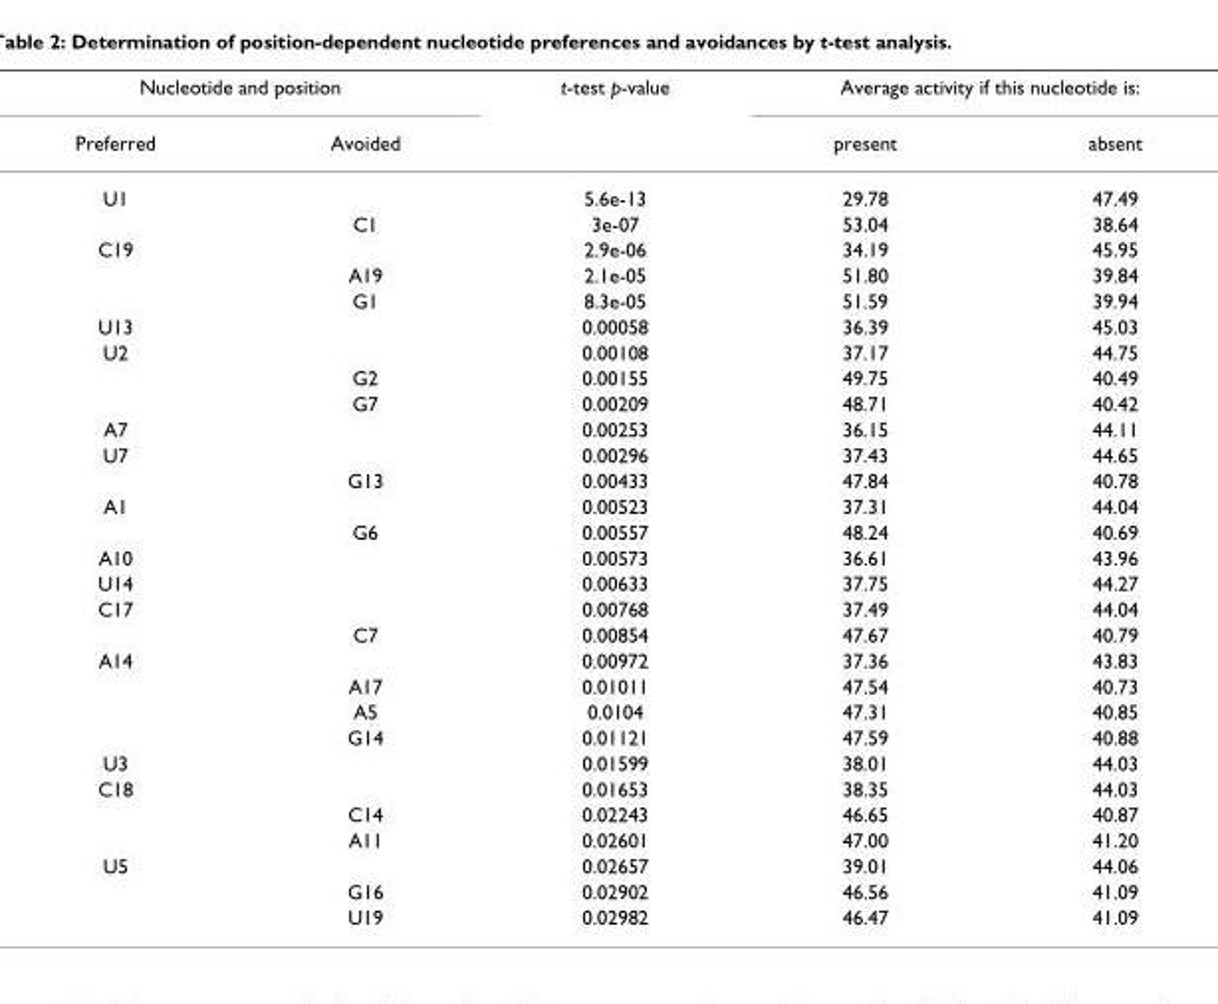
<table><thead><tr><td colspan="2">Nucleotide and position</td><td rowspan="2">t-test p-value</td><td colspan="2">Average activity if this nucleotide is:</td></tr><tr><td>Preferred</td><td>Avoided</td><td>present</td><td>absent</td></tr></thead><tbody><tr><td rowspan="2">U1</td><td></td><td>5.6e-13</td><td>29.78</td><td>47.49</td></tr><tr><td>C1</td><td>3e-07</td><td>53.04</td><td>38.64</td></tr><tr><td rowspan="3">C19</td><td></td><td>2.9e-06</td><td>34.19</td><td>45.95</td></tr><tr><td>A19</td><td>2.1e-05</td><td>51.80</td><td>39.84</td></tr><tr><td>G1</td><td>8.3e-05</td><td>51.59</td><td>39.94</td></tr><tr><td>U13</td><td></td><td>0.00058</td><td>36.39</td><td>45.03</td></tr><tr><td rowspan="3">U2</td><td></td><td>0.00108</td><td>37.17</td><td>44.75</td></tr><tr><td>G2</td><td>0.00155</td><td>49.75</td><td>40.49</td></tr><tr><td>G7</td><td>0.00209</td><td>48.71</td><td>40.42</td></tr><tr><td>A7</td><td></td><td>0.00253</td><td>36.15</td><td>44.11</td></tr><tr><td rowspan="2">U7</td><td></td><td>0.00296</td><td>37.43</td><td>44.65</td></tr><tr><td>G13</td><td>0.00433</td><td>47.84</td><td>40.78</td></tr><tr><td rowspan="2">A1</td><td></td><td>0.00523</td><td>37.31</td><td>44.04</td></tr><tr><td>G6</td><td>0.00557</td><td>48.24</td><td>40.69</td></tr><tr><td>A10</td><td></td><td>0.00573</td><td>36.61</td><td>43.96</td></tr><tr><td>U14</td><td></td><td>0.00633</td><td>37.75</td><td>44.27</td></tr><tr><td rowspan="2">C17</td><td></td><td>0.00768</td><td>37.49</td><td>44.04</td></tr><tr><td>C7</td><td>0.00854</td><td>47.67</td><td>40.79</td></tr><tr><td rowspan="4">A14</td><td></td><td>0.00972</td><td>37.36</td><td>43.83</td></tr><tr><td>A17</td><td>0.01011</td><td>47.54</td><td>40.73</td></tr><tr><td>A5</td><td>0.0104</td><td>47.31</td><td>40.85</td></tr><tr><td>G14</td><td>0.01121</td><td>47.59</td><td>40.88</td></tr><tr><td>U3</td><td></td><td>0.01599</td><td>38.01</td><td>44.03</td></tr><tr><td rowspan="3">C18</td><td></td><td>0.01653</td><td>38.35</td><td>44.03</td></tr><tr><td>C14</td><td>0.02243</td><td>46.65</td><td>40.87</td></tr><tr><td>A11</td><td>0.02601</td><td>47.00</td><td>41.20</td></tr><tr><td rowspan="3">U5</td><td></td><td>0.02657</td><td>39.01</td><td>44.06</td></tr><tr><td>G16</td><td>0.02902</td><td>46.56</td><td>41.09</td></tr><tr><td>U19</td><td>0.02982</td><td>46.47</td><td>41.09</td></tr></tbody></table>